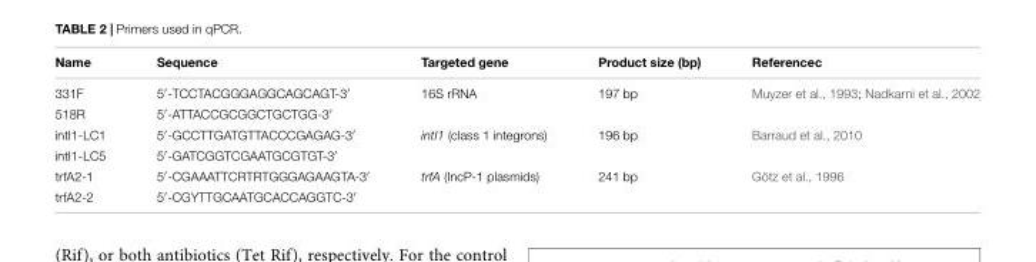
<table><thead><tr><td>Name</td><td>Sequence</td><td>Targeted gene</td><td>Product size (bp)</td><td>Referencec</td></tr></thead><tbody><tr><td>331F</td><td>5′-TCCTACGGGAGGCAGCAGT-3′</td><td>16S rRNA</td><td>197 bp</td><td>Muyzer et al., 1993; Nadkarni et al., 2002</td></tr><tr><td>518R</td><td>5′-ATTACCGCGGCTGCTGG-3′</td><td></td><td></td><td></td></tr><tr><td>intI1-LC1</td><td>5′-GCCTTGATGTTACCCGAGAG-3′</td><td>intI1 (class 1 integrons)</td><td>196 bp</td><td>Barraud et al., 2010</td></tr><tr><td>intI1-LC5</td><td>5′-GATCGGTCGAATGCGTGT-3′</td><td></td><td></td><td></td></tr><tr><td>trfA2-1</td><td>5′-CGAAATTCRTRTGGGAGAAGTA-3′</td><td>trfA (IncP-1 plasmids)</td><td>241 bp</td><td>Götz et al., 1996</td></tr><tr><td>trfA2-2</td><td>5′-CGYTTGCAATGCACCAGGTC-3′</td><td></td><td></td><td></td></tr></tbody></table>